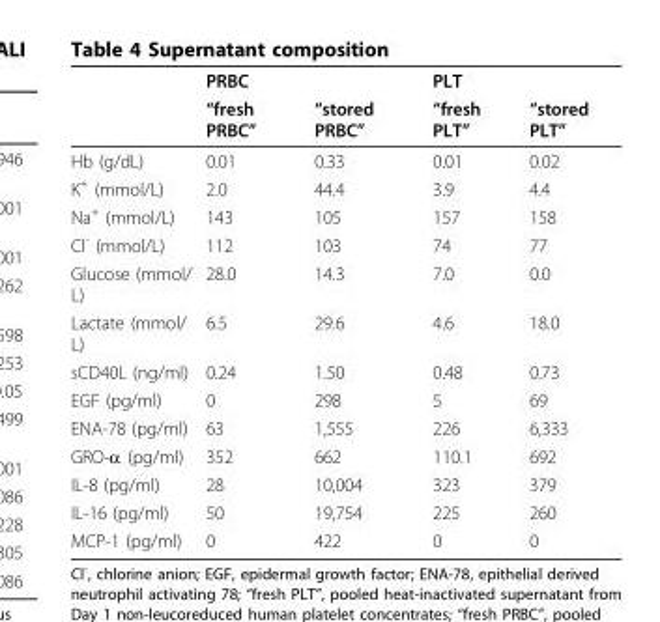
<table><thead><tr><td rowspan="2"></td><td colspan="2">PRBC</td><td colspan="2">PLT</td></tr><tr><td>“fresh PRBC”</td><td>“stored PRBC”</td><td>“fresh PLT”</td><td>“stored PLT”</td></tr></thead><tbody><tr><td>Hb (g/dL)</td><td>0.01</td><td>0.33</td><td>0.01</td><td>0.02</td></tr><tr><td>K<sup>+</sup> (mmol/L)</td><td>2.0</td><td>44.4</td><td>3.9</td><td>4.4</td></tr><tr><td>Na<sup>+</sup> (mmol/L)</td><td>143</td><td>105</td><td>157</td><td>158</td></tr><tr><td>Cl<sup>-</sup> (mmol/L)</td><td>112</td><td>103</td><td>74</td><td>77</td></tr><tr><td>Glucose (mmol/ L)</td><td>28.0</td><td>14.3</td><td>7.0</td><td>0.0</td></tr><tr><td>Lactate (mmol/ L)</td><td>6.5</td><td>29.6</td><td>4.6</td><td>18.0</td></tr><tr><td>sCD40L (ng/ml)</td><td>0.24</td><td>1.50</td><td>0.48</td><td>0.73</td></tr><tr><td>EGF (pg/ml)</td><td>0</td><td>298</td><td>5</td><td>69</td></tr><tr><td>ENA-78 (pg/ml)</td><td>63</td><td>1,555</td><td>226</td><td>6,333</td></tr><tr><td>GRO-α (pg/ml)</td><td>352</td><td>662</td><td>110.1</td><td>692</td></tr><tr><td>IL-8 (pg/ml)</td><td>28</td><td>10,004</td><td>323</td><td>379</td></tr><tr><td>IL-16 (pg/ml)</td><td>50</td><td>19,754</td><td>225</td><td>260</td></tr><tr><td>MCP-1 (pg/ml)</td><td>0</td><td>422</td><td>0</td><td>0</td></tr></tbody></table>